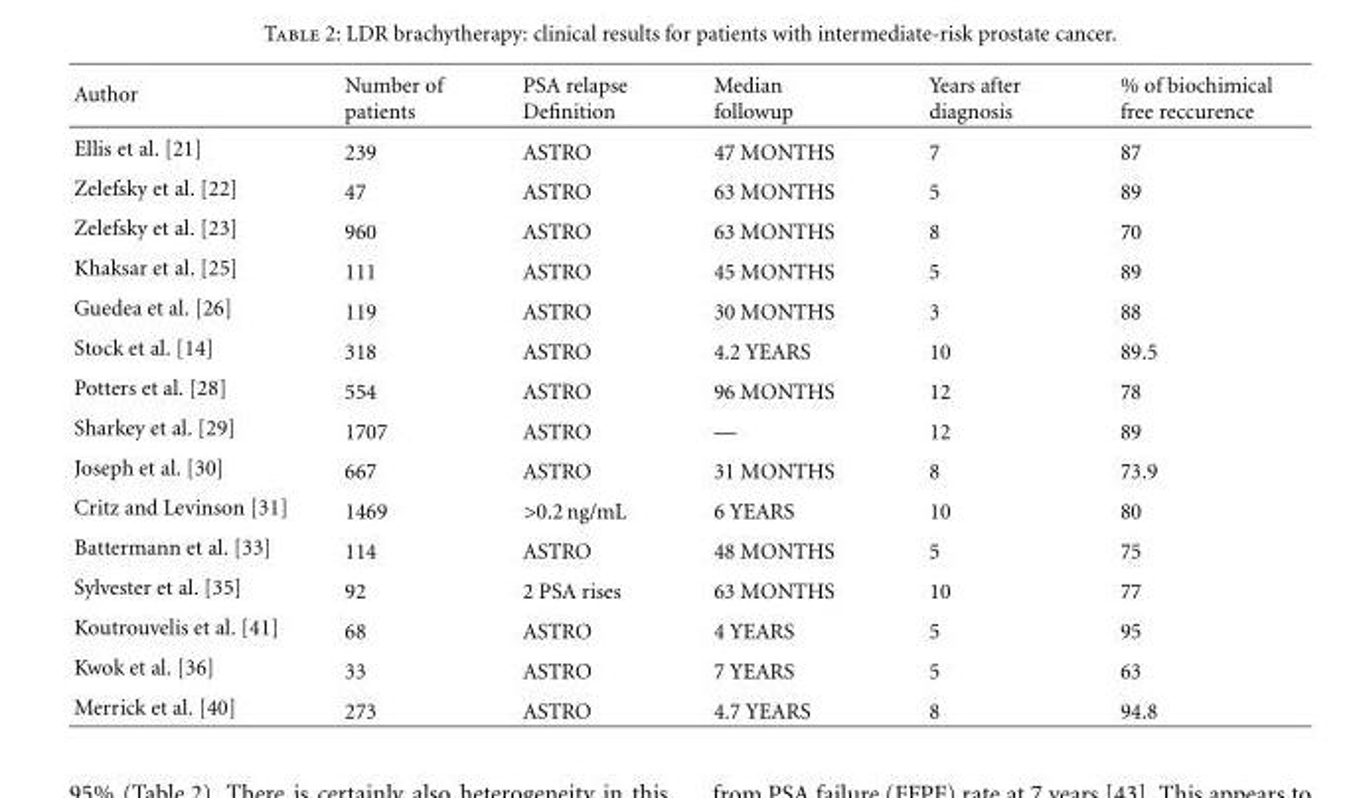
<table><thead><tr><td>Author</td><td>Number of patients</td><td>PSA relapse Definition</td><td>Median followup</td><td>Years after diagnosis</td><td>% of biochimical free reccurence</td></tr></thead><tbody><tr><td>Ellis et al. [21]</td><td>239</td><td>ASTRO</td><td>47 MONTHS</td><td>7</td><td>87</td></tr><tr><td>Zelefsky et al. [22]</td><td>47</td><td>ASTRO</td><td>63 MONTHS</td><td>5</td><td>89</td></tr><tr><td>Zelefsky et al. [23]</td><td>960</td><td>ASTRO</td><td>63 MONTHS</td><td>8</td><td>70</td></tr><tr><td>Khaksar et al. [25]</td><td>111</td><td>ASTRO</td><td>45 MONTHS</td><td>5</td><td>89</td></tr><tr><td>Guedea et al. [26]</td><td>119</td><td>ASTRO</td><td>30 MONTHS</td><td>3</td><td>88</td></tr><tr><td>Stock et al. [14]</td><td>318</td><td>ASTRO</td><td>4.2 YEARS</td><td>10</td><td>89.5</td></tr><tr><td>Potters et al. [28]</td><td>554</td><td>ASTRO</td><td>96 MONTHS</td><td>12</td><td>78</td></tr><tr><td>Sharkey et al. [29]</td><td>1707</td><td>ASTRO</td><td>—</td><td>12</td><td>89</td></tr><tr><td>Joseph et al. [30]</td><td>667</td><td>ASTRO</td><td>31 MONTHS</td><td>8</td><td>73.9</td></tr><tr><td>Critz and Levinson [31]</td><td>1469</td><td>&gt;0.2 ng/mL</td><td>6 YEARS</td><td>10</td><td>80</td></tr><tr><td>Battermann et al. [33]</td><td>114</td><td>ASTRO</td><td>48 MONTHS</td><td>5</td><td>75</td></tr><tr><td>Sylvester et al. [35]</td><td>92</td><td>2 PSA rises</td><td>63 MONTHS</td><td>10</td><td>77</td></tr><tr><td>Koutrouvelis et al. [41]</td><td>68</td><td>ASTRO</td><td>4 YEARS</td><td>5</td><td>95</td></tr><tr><td>Kwok et al. [36]</td><td>33</td><td>ASTRO</td><td>7 YEARS</td><td>5</td><td>63</td></tr><tr><td>Merrick et al. [40]</td><td>273</td><td>ASTRO</td><td>4.7 YEARS</td><td>8</td><td>94.8</td></tr></tbody></table>